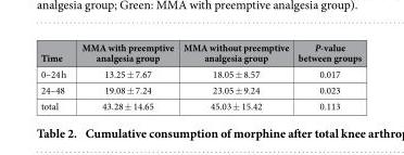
<table><thead><tr><td>Time</td><td>MMA with preemptive analgesia group</td><td>MMA without preemptive analgesia group</td><td>P-value between groups</td></tr></thead><tbody><tr><td>0–24 h</td><td>13.25 ± 7.67</td><td>18.05 ± 8.57</td><td>0.017</td></tr><tr><td>24–48</td><td>19.08 ± 7.24</td><td>23.05 ± 9.24</td><td>0.023</td></tr><tr><td>total</td><td>43.28 ± 14.65</td><td>45.03 ± 15.42</td><td>0.113</td></tr></tbody></table>